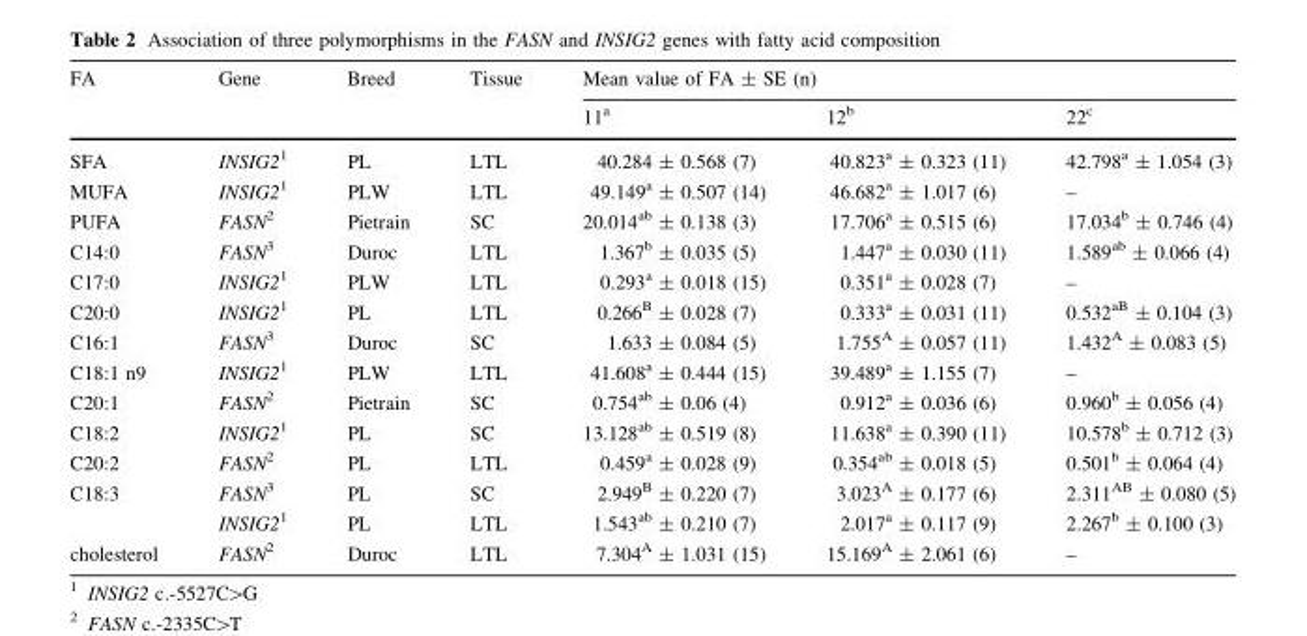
<table><thead><tr><td rowspan="2">FA</td><td rowspan="2">Gene</td><td rowspan="2">Breed</td><td rowspan="2">Tissue</td><td colspan="3">Mean value of FA ± SE (n)</td></tr><tr><td>11<sup>a</sup></td><td>12<sup>b</sup></td><td>22<sup>c</sup></td></tr></thead><tbody><tr><td>SFA</td><td>INSIG2<sup>1</sup></td><td>PL</td><td>LTL</td><td>40.284 ± 0.568 (7)</td><td>40.823<sup>a</sup> ± 0.323 (11)</td><td>42.798<sup>a</sup> ± 1.054 (3)</td></tr><tr><td>MUFA</td><td>INSIG2<sup>1</sup></td><td>PLW</td><td>LTL</td><td>49.149<sup>a</sup> ± 0.507 (14)</td><td>46.682<sup>a</sup> ± 1.017 (6)</td><td>–</td></tr><tr><td>PUFA</td><td>FASN<sup>2</sup></td><td>Pietrain</td><td>SC</td><td>20.014<sup>ab</sup> ± 0.138 (3)</td><td>17.706<sup>a</sup> ± 0.515 (6)</td><td>17.034<sup>b</sup> ± 0.746 (4)</td></tr><tr><td>C14:0</td><td>FASN<sup>3</sup></td><td>Duroc</td><td>LTL</td><td>1.367<sup>b</sup> ± 0.035 (5)</td><td>1.447<sup>a</sup> ± 0.030 (11)</td><td>1.589<sup>ab</sup> ± 0.066 (4)</td></tr><tr><td>C17:0</td><td>INSIG2<sup>1</sup></td><td>PLW</td><td>LTL</td><td>0.293<sup>a</sup> ± 0.018 (15)</td><td>0.351<sup>a</sup> ± 0.028 (7)</td><td>–</td></tr><tr><td>C20:0</td><td>INSIG2<sup>1</sup></td><td>PL</td><td>LTL</td><td>0.266<sup>B</sup> ± 0.028 (7)</td><td>0.333<sup>a</sup> ± 0.031 (11)</td><td>0.532<sup>aB</sup> ± 0.104 (3)</td></tr><tr><td>C16:1</td><td>FASN<sup>3</sup></td><td>Duroc</td><td>SC</td><td>1.633 ± 0.084 (5)</td><td>1.755<sup>A</sup> ± 0.057 (11)</td><td>1.432<sup>A</sup> ± 0.083 (5)</td></tr><tr><td>C18:1 n9</td><td>INSIG2<sup>1</sup></td><td>PLW</td><td>LTL</td><td>41.608<sup>a</sup> ± 0.444 (15)</td><td>39.489<sup>a</sup> ± 1.155 (7)</td><td>–</td></tr><tr><td>C20:1</td><td>FASN<sup>2</sup></td><td>Pietrain</td><td>SC</td><td>0.754<sup>ab</sup> ± 0.06 (4)</td><td>0.912<sup>a</sup> ± 0.036 (6)</td><td>0.960<sup>b</sup> ± 0.056 (4)</td></tr><tr><td>C18:2</td><td>INSIG2<sup>1</sup></td><td>PL</td><td>SC</td><td>13.128<sup>ab</sup> ± 0.519 (8)</td><td>11.638<sup>a</sup> ± 0.390 (11)</td><td>10.578<sup>b</sup> ± 0.712 (3)</td></tr><tr><td>C20:2</td><td>FASN<sup>2</sup></td><td>PL</td><td>LTL</td><td>0.459<sup>a</sup> ± 0.028 (9)</td><td>0.354<sup>ab</sup> ± 0.018 (5)</td><td>0.501<sup>b</sup> ± 0.064 (4)</td></tr><tr><td rowspan="2">C18:3</td><td>FASN<sup>3</sup></td><td>PL</td><td>SC</td><td>2.949<sup>B</sup> ± 0.220 (7)</td><td>3.023<sup>A</sup> ± 0.177 (6)</td><td>2.311<sup>AB</sup> ± 0.080 (5)</td></tr><tr><td>INSIG2<sup>1</sup></td><td>PL</td><td>LTL</td><td>1.543<sup>ab</sup> ± 0.210 (7)</td><td>2.017<sup>a</sup> ± 0.117 (9)</td><td>2.267<sup>b</sup> ± 0.100 (3)</td></tr><tr><td>cholesterol</td><td>FASN<sup>2</sup></td><td>Duroc</td><td>LTL</td><td>7.304<sup>A</sup> ± 1.031 (15)</td><td>15.169<sup>A</sup> ± 2.061 (6)</td><td>–</td></tr></tbody></table>